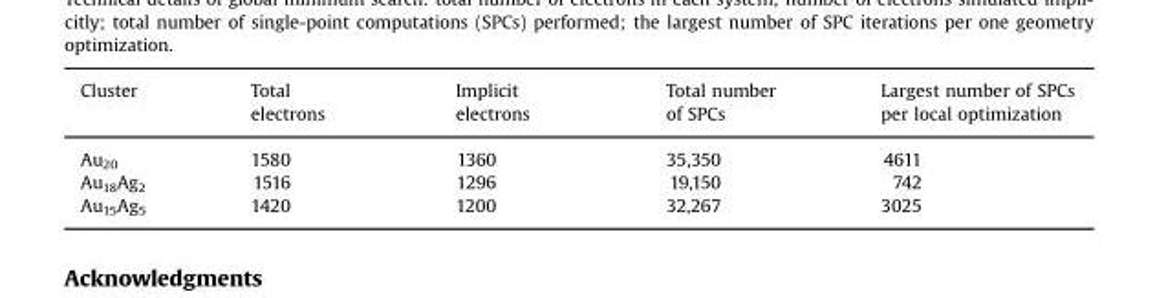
<table><thead><tr><td>Cluster</td><td>Total electrons</td><td>Implicit electrons</td><td>Total number of SPCs</td><td>Largest number of SPCs per local optimization</td></tr></thead><tbody><tr><td>Au<sub>20</sub></td><td>1580</td><td>1360</td><td>35,350</td><td>4611</td></tr><tr><td>Au<sub>18</sub>Ag<sub>2</sub></td><td>1516</td><td>1296</td><td>19,150</td><td>742</td></tr><tr><td>Au<sub>15</sub>Ag<sub>5</sub></td><td>1420</td><td>1200</td><td>32,267</td><td>3025</td></tr></tbody></table>